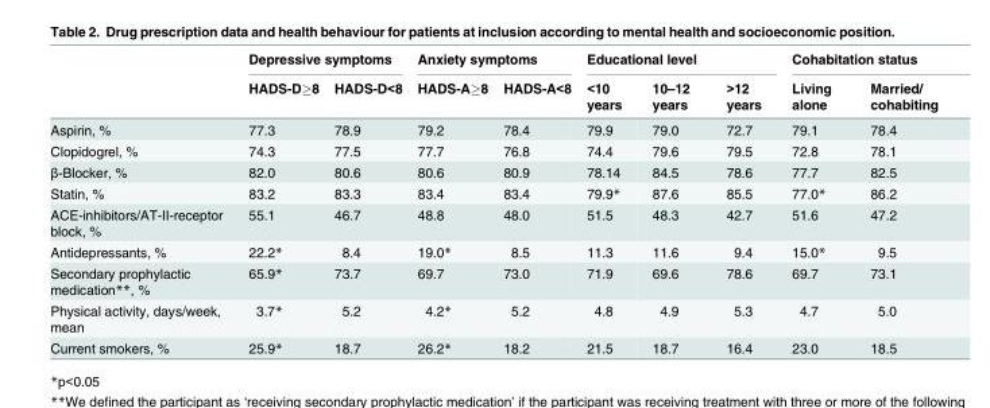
<table><thead><tr><td rowspan="2"></td><td colspan="2">Depressive symptoms</td><td colspan="2">Anxiety symptoms</td><td colspan="3">Educational level</td><td colspan="2">Cohabitation status</td></tr><tr><td>HADS-D≥8</td><td>HADS-D&lt;8</td><td>HADS-A≥8</td><td>HADS-A&lt;8</td><td>&lt;10 years</td><td>10–12 years</td><td>&gt;12 years</td><td>Living alone</td><td>Married/ cohabiting</td></tr></thead><tbody><tr><td>Aspirin, %</td><td>77.3</td><td>78.9</td><td>79.2</td><td>78.4</td><td>79.9</td><td>79.0</td><td>72.7</td><td>79.1</td><td>78.4</td></tr><tr><td>Clopidogrel, %</td><td>74.3</td><td>77.5</td><td>77.7</td><td>76.8</td><td>74.4</td><td>79.6</td><td>79.5</td><td>72.8</td><td>78.1</td></tr><tr><td>β-Blocker, %</td><td>82.0</td><td>80.6</td><td>80.6</td><td>80.9</td><td>78.14</td><td>84.5</td><td>78.6</td><td>77.7</td><td>82.5</td></tr><tr><td>Statin, %</td><td>83.2</td><td>83.3</td><td>83.4</td><td>83.4</td><td>79.9*</td><td>87.6</td><td>85.5</td><td>77.0*</td><td>86.2</td></tr><tr><td>ACE-inhibitors/AT-II-receptor block, %</td><td>55.1</td><td>46.7</td><td>48.8</td><td>48.0</td><td>51.5</td><td>48.3</td><td>42.7</td><td>51.6</td><td>47.2</td></tr><tr><td>Antidepressants, %</td><td>22.2*</td><td>8.4</td><td>19.0*</td><td>8.5</td><td>11.3</td><td>11.6</td><td>9.4</td><td>15.0*</td><td>9.5</td></tr><tr><td>Secondary prophylactic medication**, %</td><td>65.9*</td><td>73.7</td><td>69.7</td><td>73.0</td><td>71.9</td><td>69.6</td><td>78.6</td><td>69.7</td><td>73.1</td></tr><tr><td>Physical activity, days/week, mean</td><td>3.7*</td><td>5.2</td><td>4.2*</td><td>5.2</td><td>4.8</td><td>4.9</td><td>5.3</td><td>4.7</td><td>5.0</td></tr><tr><td>Current smokers, %</td><td>25.9*</td><td>18.7</td><td>26.2*</td><td>18.2</td><td>21.5</td><td>18.7</td><td>16.4</td><td>23.0</td><td>18.5</td></tr></tbody></table>